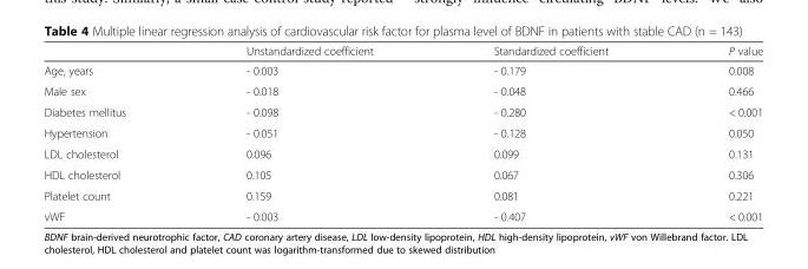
<table><thead><tr><td></td><td>Unstandardized coefficient</td><td>Standardized coefficient</td><td>P value</td></tr></thead><tbody><tr><td>Age, years</td><td>- 0.003</td><td>- 0.179</td><td>0.008</td></tr><tr><td>Male sex</td><td>- 0.018</td><td>- 0.048</td><td>0.466</td></tr><tr><td>Diabetes mellitus</td><td>- 0.098</td><td>- 0.280</td><td>&lt; 0.001</td></tr><tr><td>Hypertension</td><td>- 0.051</td><td>- 0.128</td><td>0.050</td></tr><tr><td>LDL cholesterol</td><td>0.096</td><td>0.099</td><td>0.131</td></tr><tr><td>HDL cholesterol</td><td>0.105</td><td>0.067</td><td>0.306</td></tr><tr><td>Platelet count</td><td>0.159</td><td>0.081</td><td>0.221</td></tr><tr><td>vWF</td><td>- 0.003</td><td>- 0.407</td><td>&lt; 0.001</td></tr></tbody></table>